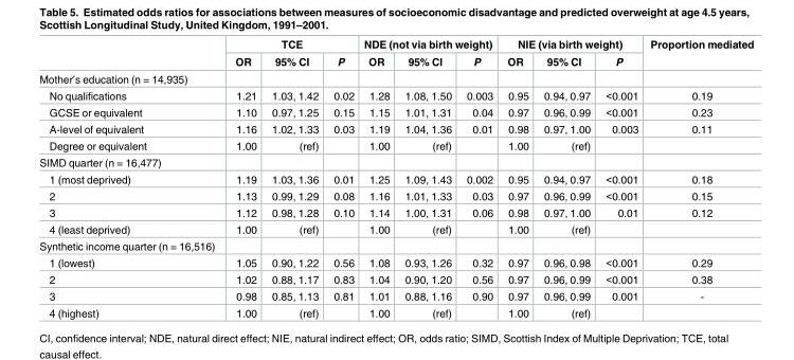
<table><thead><tr><td rowspan="2"></td><td colspan="3">TCE</td><td colspan="3">NDE (not via birth weight)</td><td colspan="3">NIE (via birth weight)</td><td rowspan="2">Proportion mediated</td></tr><tr><td>OR</td><td>95% CI</td><td>P</td><td>OR</td><td>95% CI</td><td>P</td><td>OR</td><td>95% CI</td><td>P</td></tr></thead><tbody><tr><td colspan="11">Mother’s education (n = 14,935)</td></tr><tr><td>No qualifications</td><td>1.21</td><td>1.03, 1.42</td><td>0.02</td><td>1.28</td><td>1.08, 1.50</td><td>0.003</td><td>0.95</td><td>0.94, 0.97</td><td>&lt;0.001</td><td>0.19</td></tr><tr><td>GCSE or equivalent</td><td>1.10</td><td>0.97, 1.25</td><td>0.15</td><td>1.15</td><td>1.01, 1.31</td><td>0.04</td><td>0.97</td><td>0.96, 0.99</td><td>&lt;0.001</td><td>0.23</td></tr><tr><td>A-level of equivalent</td><td>1.16</td><td>1.02, 1.33</td><td>0.03</td><td>1.19</td><td>1.04, 1.36</td><td>0.01</td><td>0.98</td><td>0.97, 1.00</td><td>0.003</td><td>0.11</td></tr><tr><td>Degree or equivalent</td><td>1.00</td><td>(ref)</td><td></td><td>1.00</td><td>(ref)</td><td></td><td>1.00</td><td>(ref)</td><td></td><td></td></tr><tr><td colspan="11">SIMD quarter (n = 16,477)</td></tr><tr><td>1 (most deprived)</td><td>1.19</td><td>1.03, 1.36</td><td>0.01</td><td>1.25</td><td>1.09, 1.43</td><td>0.002</td><td>0.95</td><td>0.94, 0.97</td><td>&lt;0.001</td><td>0.18</td></tr><tr><td>2</td><td>1.13</td><td>0.99, 1.29</td><td>0.08</td><td>1.16</td><td>1.01, 1.33</td><td>0.03</td><td>0.97</td><td>0.96, 0.99</td><td>&lt;0.001</td><td>0.15</td></tr><tr><td>3</td><td>1.12</td><td>0.98, 1.28</td><td>0.10</td><td>1.14</td><td>1.00, 1.31</td><td>0.06</td><td>0.98</td><td>0.97, 1.00</td><td>0.01</td><td>0.12</td></tr><tr><td>4 (least deprived)</td><td>1.00</td><td>(ref)</td><td></td><td>1.00</td><td>(ref)</td><td></td><td>1.00</td><td>(ref)</td><td></td><td></td></tr><tr><td colspan="11">Synthetic income quarter (n = 16,516)</td></tr><tr><td>1 (lowest)</td><td>1.05</td><td>0.90, 1.22</td><td>0.56</td><td>1.08</td><td>0.93, 1.26</td><td>0.32</td><td>0.97</td><td>0.96, 0.98</td><td>&lt;0.001</td><td>0.29</td></tr><tr><td>2</td><td>1.02</td><td>0.88, 1.17</td><td>0.83</td><td>1.04</td><td>0.90, 1.20</td><td>0.56</td><td>0.97</td><td>0.96, 0.99</td><td>&lt;0.001</td><td>0.38</td></tr><tr><td>3</td><td>0.98</td><td>0.85, 1.13</td><td>0.81</td><td>1.01</td><td>0.88, 1.16</td><td>0.90</td><td>0.97</td><td>0.96, 0.99</td><td>0.001</td><td>-</td></tr><tr><td>4 (highest)</td><td>1.00</td><td>(ref)</td><td></td><td>1.00</td><td>(ref)</td><td></td><td>1.00</td><td>(ref)</td><td></td><td></td></tr></tbody></table>